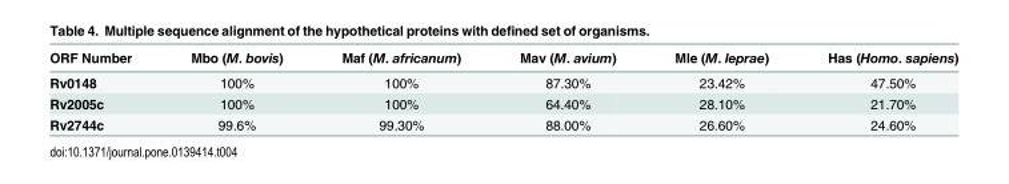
<table><thead><tr><td>ORF Number</td><td>Mbo (M. bovis)</td><td>Maf (M. africanum)</td><td>Mav (M. avium)</td><td>Mle (M. leprae)</td><td>Has (Homo. sapiens)</td></tr></thead><tbody><tr><td>Rv0148</td><td>100%</td><td>100%</td><td>87.30%</td><td>23.42%</td><td>47.50%</td></tr><tr><td>Rv2005c</td><td>100%</td><td>100%</td><td>64.40%</td><td>28.10%</td><td>21.70%</td></tr><tr><td>Rv2744c</td><td>99.6%</td><td>99.30%</td><td>88.00%</td><td>26.60%</td><td>24.60%</td></tr></tbody></table>